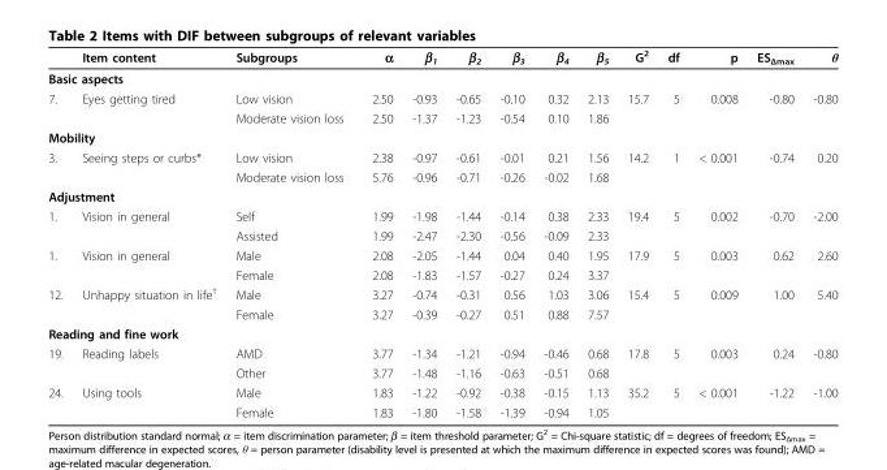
<table><thead><tr><td></td><td>Item content</td><td>Subgroups</td><td>α</td><td>β<sub>1</sub></td><td>β<sub>2</sub></td><td>β<sub>3</sub></td><td>β<sub>4</sub></td><td>β<sub>5</sub></td><td>G<sup>2</sup></td><td>df</td><td>p</td><td>ES<sub>Δmax</sub></td><td>θ</td></tr></thead><tbody><tr><td colspan="14">Basic aspects</td></tr><tr><td rowspan="2">7.</td><td>Eyes getting tired</td><td>Low vision</td><td>2.50</td><td>-0.93</td><td>-0.65</td><td>-0.10</td><td>0.32</td><td>2.13</td><td>15.7</td><td>5</td><td>0.008</td><td>-0.80</td><td>-0.80</td></tr><tr><td></td><td>Moderate vision loss</td><td>2.50</td><td>-1.37</td><td>-1.23</td><td>-0.54</td><td>0.10</td><td>1.86</td><td></td><td></td><td></td><td></td><td></td></tr><tr><td colspan="14">Mobility</td></tr><tr><td rowspan="2">3.</td><td>Seeing steps or curbs*</td><td>Low vision</td><td>2.38</td><td>-0.97</td><td>-0.61</td><td>-0.01</td><td>0.21</td><td>1.56</td><td>14.2</td><td>1</td><td>&lt; 0.001</td><td>-0.74</td><td>0.20</td></tr><tr><td></td><td>Moderate vision loss</td><td>5.76</td><td>-0.96</td><td>-0.71</td><td>-0.26</td><td>-0.02</td><td>1.68</td><td></td><td></td><td></td><td></td><td></td></tr><tr><td colspan="14">Adjustment</td></tr><tr><td rowspan="2">1.</td><td>Vision in general</td><td>Self</td><td>1.99</td><td>-1.98</td><td>-1.44</td><td>-0.14</td><td>0.38</td><td>2.33</td><td>19.4</td><td>5</td><td>0.002</td><td>-0.70</td><td>-2.00</td></tr><tr><td></td><td>Assisted</td><td>1.99</td><td>-2.47</td><td>-2.30</td><td>-0.56</td><td>-0.09</td><td>2.33</td><td></td><td></td><td></td><td></td><td></td></tr><tr><td rowspan="2">1.</td><td>Vision in general</td><td>Male</td><td>2.08</td><td>-2.05</td><td>-1.44</td><td>0.04</td><td>0.40</td><td>1.95</td><td>17.9</td><td>5</td><td>0.003</td><td>0.62</td><td>2.60</td></tr><tr><td></td><td>Female</td><td>2.08</td><td>-1.83</td><td>-1.57</td><td>-0.27</td><td>0.24</td><td>3.37</td><td></td><td></td><td></td><td></td><td></td></tr><tr><td rowspan="2">12.</td><td>Unhappy situation in life<sup>†</sup></td><td>Male</td><td>3.27</td><td>-0.74</td><td>-0.31</td><td>0.56</td><td>1.03</td><td>3.06</td><td>15.4</td><td>5</td><td>0.009</td><td>1.00</td><td>5.40</td></tr><tr><td></td><td>Female</td><td>3.27</td><td>-0.39</td><td>-0.27</td><td>0.51</td><td>0.88</td><td>7.57</td><td></td><td></td><td></td><td></td><td></td></tr><tr><td colspan="14">Reading and fine work</td></tr><tr><td rowspan="2">19.</td><td>Reading labels</td><td>AMD</td><td>3.77</td><td>-1.34</td><td>-1.21</td><td>-0.94</td><td>-0.46</td><td>0.68</td><td>17.8</td><td>5</td><td>0.003</td><td>0.24</td><td>-0.80</td></tr><tr><td></td><td>Other</td><td>3.77</td><td>-1.48</td><td>-1.16</td><td>-0.63</td><td>-0.51</td><td>0.68</td><td></td><td></td><td></td><td></td><td></td></tr><tr><td rowspan="2">24.</td><td>Using tools</td><td>Male</td><td>1.83</td><td>-1.22</td><td>-0.92</td><td>-0.38</td><td>-0.15</td><td>1.13</td><td>35.2</td><td>5</td><td>&lt; 0.001</td><td>-1.22</td><td>-1.00</td></tr><tr><td></td><td>Female</td><td>1.83</td><td>-1.80</td><td>-1.58</td><td>-1.39</td><td>-0.94</td><td>1.05</td><td></td><td></td><td></td><td></td><td></td></tr></tbody></table>